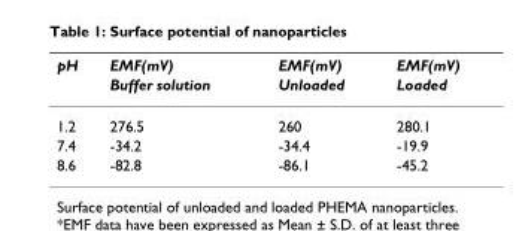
<table><thead><tr><td rowspan="2">pH</td><td rowspan="2">EMF(mV) Buffer solution</td><td rowspan="2">EMF(mV) Unloaded</td><td rowspan="2">EMF(mV) Loaded</td></tr><tr></tr></thead><tbody><tr><td>1.2</td><td>276.5</td><td>260</td><td>280.1</td></tr><tr><td>7.4</td><td>-34.2</td><td>-34.4</td><td>-19.9</td></tr><tr><td>8.6</td><td>-82.8</td><td>-86.1</td><td>-45.2</td></tr></tbody></table>